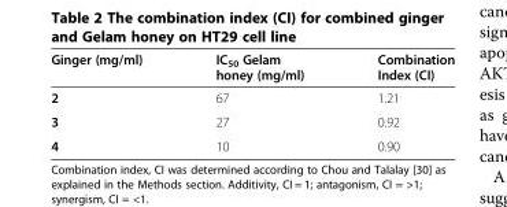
<table><thead><tr><td>Ginger (mg/ml)</td><td>IC<sub>50</sub> Gelam honey (mg/ml)</td><td>Combination Index (CI)</td></tr></thead><tbody><tr><td>2</td><td>67</td><td>1.21</td></tr><tr><td>3</td><td>27</td><td>0.92</td></tr><tr><td>4</td><td>10</td><td>0.90</td></tr></tbody></table>